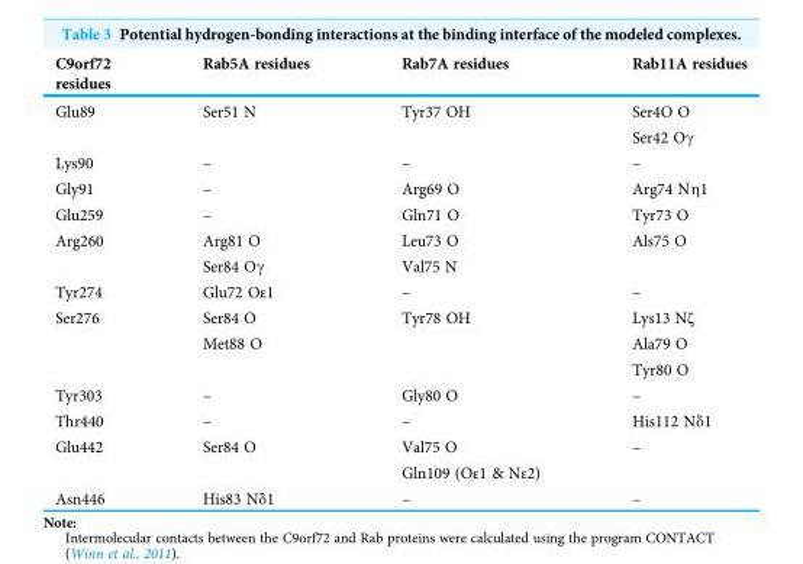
<table><thead><tr><td>C9orf72 residues</td><td>Rab5A residues</td><td>Rab7A residues</td><td>Rab11A residues</td></tr></thead><tbody><tr><td rowspan="2">Glu89</td><td>Ser51 N</td><td>Tyr37 OH</td><td>Ser4O O</td></tr><tr><td></td><td></td><td>Ser42 Oγ</td></tr><tr><td>Lys90</td><td>–</td><td>–</td><td>–</td></tr><tr><td>Gly91</td><td>–</td><td>Arg69 O</td><td>Arg74 Nη1</td></tr><tr><td>Glu259</td><td>–</td><td>Gln71 O</td><td>Tyr73 O</td></tr><tr><td rowspan="2">Arg260</td><td>Arg81 O</td><td>Leu73 O</td><td>Als75 O</td></tr><tr><td>Ser84 Oγ</td><td>Val75 N</td><td></td></tr><tr><td>Tyr274</td><td>Glu72 Oε1</td><td>–</td><td>–</td></tr><tr><td rowspan="3">Ser276</td><td>Ser84 O</td><td>Tyr78 OH</td><td>Lys13 Nζ</td></tr><tr><td>Met88 O</td><td></td><td>Ala79 O</td></tr><tr><td></td><td></td><td>Tyr80 O</td></tr><tr><td>Tyr303</td><td>–</td><td>Gly80 O</td><td>–</td></tr><tr><td>Thr440</td><td>–</td><td>–</td><td>His112 Nδ1</td></tr><tr><td rowspan="2">Glu442</td><td>Ser84 O</td><td>Val75 O</td><td>–</td></tr><tr><td></td><td>Gln109 (Oε1 &amp; Nε2)</td><td></td></tr><tr><td>Asn446</td><td>His83 Nδ1</td><td>–</td><td>–</td></tr></tbody></table>